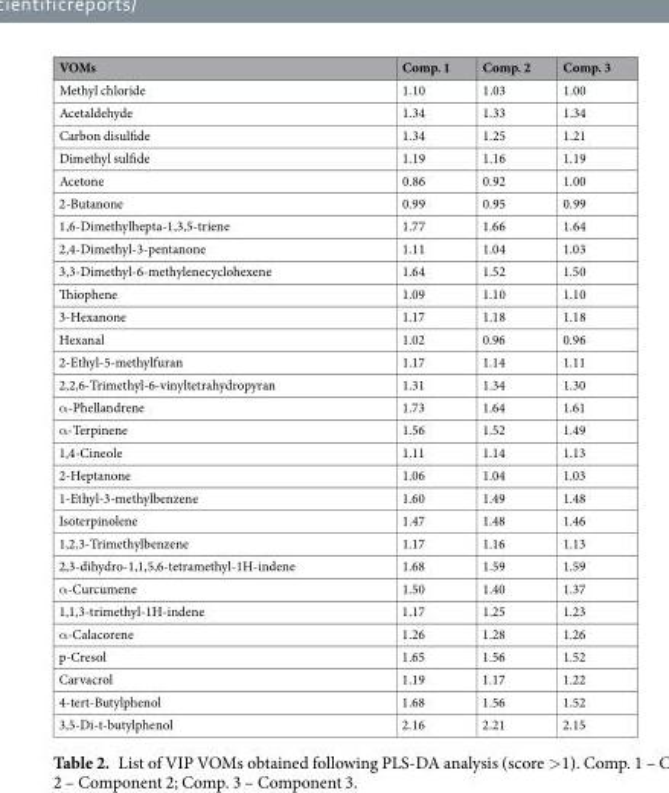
<table><thead><tr><td>VOMs</td><td>Comp. 1</td><td>Comp. 2</td><td>Comp. 3</td></tr></thead><tbody><tr><td>Methyl chloride</td><td>1.10</td><td>1.03</td><td>1.00</td></tr><tr><td>Acetaldehyde</td><td>1.34</td><td>1.33</td><td>1.34</td></tr><tr><td>Carbon disulfide</td><td>1.34</td><td>1.25</td><td>1.21</td></tr><tr><td>Dimethyl sulfide</td><td>1.19</td><td>1.16</td><td>1.19</td></tr><tr><td>Acetone</td><td>0.86</td><td>0.92</td><td>1.00</td></tr><tr><td>2-Butanone</td><td>0.99</td><td>0.95</td><td>0.99</td></tr><tr><td>1,6-Dimethylhepta-1,3,5-triene</td><td>1.77</td><td>1.66</td><td>1.64</td></tr><tr><td>2,4-Dimethyl-3-pentanone</td><td>1.11</td><td>1.04</td><td>1.03</td></tr><tr><td>3,3-Dimethyl-6-methylenecyclohexene</td><td>1.64</td><td>1.52</td><td>1.50</td></tr><tr><td>Thiophene</td><td>1.09</td><td>1.10</td><td>1.10</td></tr><tr><td>3-Hexanone</td><td>1.17</td><td>1.18</td><td>1.18</td></tr><tr><td>Hexanal</td><td>1.02</td><td>0.96</td><td>0.96</td></tr><tr><td>2-Ethyl-5-methylfuran</td><td>1.17</td><td>1.14</td><td>1.11</td></tr><tr><td>2,2,6-Trimethyl-6-vinyltetrahydropyran</td><td>1.31</td><td>1.34</td><td>1.30</td></tr><tr><td>α-Phellandrene</td><td>1.73</td><td>1.64</td><td>1.61</td></tr><tr><td>α-Terpinene</td><td>1.56</td><td>1.52</td><td>1.49</td></tr><tr><td>1,4-Cineole</td><td>1.11</td><td>1.14</td><td>1.13</td></tr><tr><td>2-Heptanone</td><td>1.06</td><td>1.04</td><td>1.03</td></tr><tr><td>1-Ethyl-3-methylbenzene</td><td>1.60</td><td>1.49</td><td>1.48</td></tr><tr><td>Isoterpinolene</td><td>1.47</td><td>1.48</td><td>1.46</td></tr><tr><td>1,2,3-Trimethylbenzene</td><td>1.17</td><td>1.16</td><td>1.13</td></tr><tr><td>2,3-dihydro-1,1,5,6-tetramethyl-1H-indene</td><td>1.68</td><td>1.59</td><td>1.59</td></tr><tr><td>α-Curcumene</td><td>1.50</td><td>1.40</td><td>1.37</td></tr><tr><td>1,1,3-trimethyl-1H-indene</td><td>1.17</td><td>1.25</td><td>1.23</td></tr><tr><td>α-Calacorene</td><td>1.26</td><td>1.28</td><td>1.26</td></tr><tr><td>p-Cresol</td><td>1.65</td><td>1.56</td><td>1.52</td></tr><tr><td>Carvacrol</td><td>1.19</td><td>1.17</td><td>1.22</td></tr><tr><td>4-tert-Butylphenol</td><td>1.68</td><td>1.56</td><td>1.52</td></tr><tr><td>3,5-Di-t-butylphenol</td><td>2.16</td><td>2.21</td><td>2.15</td></tr></tbody></table>